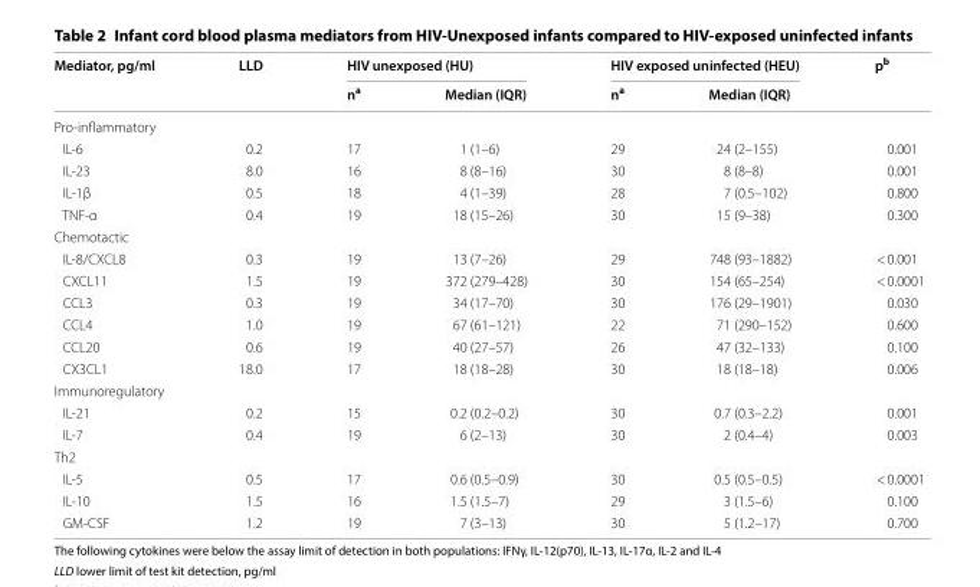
<table><thead><tr><td rowspan="2">Mediator, pg/ml</td><td rowspan="2">LLD</td><td colspan="2">HIV unexposed (HU)</td><td colspan="2">HIV exposed uninfected (HEU)</td><td rowspan="2">p<sup>b</sup></td></tr><tr><td>n<sup>a</sup></td><td>Median (IQR)</td><td>n<sup>a</sup></td><td>Median (IQR)</td></tr></thead><tbody><tr><td colspan="7">Pro‑inflammatory</td></tr><tr><td>IL‑6</td><td>0.2</td><td>17</td><td>1 (1–6)</td><td>29</td><td>24 (2–155)</td><td>0.001</td></tr><tr><td>IL‑23</td><td>8.0</td><td>16</td><td>8 (8–16)</td><td>30</td><td>8 (8–8)</td><td>0.001</td></tr><tr><td>IL‑1β</td><td>0.5</td><td>18</td><td>4 (1–39)</td><td>28</td><td>7 (0.5–102)</td><td>0.800</td></tr><tr><td>TNF‑α</td><td>0.4</td><td>19</td><td>18 (15–26)</td><td>30</td><td>15 (9–38)</td><td>0.300</td></tr><tr><td colspan="7">Chemotactic</td></tr><tr><td>IL‑8/CXCL8</td><td>0.3</td><td>19</td><td>13 (7–26)</td><td>29</td><td>748 (93–1882)</td><td>&lt; 0.001</td></tr><tr><td>CXCL11</td><td>1.5</td><td>19</td><td>372 (279–428)</td><td>30</td><td>154 (65–254)</td><td>&lt; 0.0001</td></tr><tr><td>CCL3</td><td>0.3</td><td>19</td><td>34 (17–70)</td><td>30</td><td>176 (29–1901)</td><td>0.030</td></tr><tr><td>CCL4</td><td>1.0</td><td>19</td><td>67 (61–121)</td><td>22</td><td>71 (290–152)</td><td>0.600</td></tr><tr><td>CCL20</td><td>0.6</td><td>19</td><td>40 (27–57)</td><td>26</td><td>47 (32–133)</td><td>0.100</td></tr><tr><td>CX3CL1</td><td>18.0</td><td>17</td><td>18 (18–28)</td><td>30</td><td>18 (18–18)</td><td>0.006</td></tr><tr><td colspan="7">Immunoregulatory</td></tr><tr><td>IL‑21</td><td>0.2</td><td>15</td><td>0.2 (0.2–0.2)</td><td>30</td><td>0.7 (0.3–2.2)</td><td>0.001</td></tr><tr><td>IL‑7</td><td>0.4</td><td>19</td><td>6 (2–13)</td><td>30</td><td>2 (0.4–4)</td><td>0.003</td></tr><tr><td colspan="7">Th2</td></tr><tr><td>IL‑5</td><td>0.5</td><td>17</td><td>0.6 (0.5–0.9)</td><td>30</td><td>0.5 (0.5–0.5)</td><td>&lt; 0.0001</td></tr><tr><td>IL‑10</td><td>1.5</td><td>16</td><td>1.5 (1.5–7)</td><td>29</td><td>3 (1.5–6)</td><td>0.100</td></tr><tr><td>GM‑CSF</td><td>1.2</td><td>19</td><td>7 (3–13)</td><td>30</td><td>5 (1.2–17)</td><td>0.700</td></tr></tbody></table>